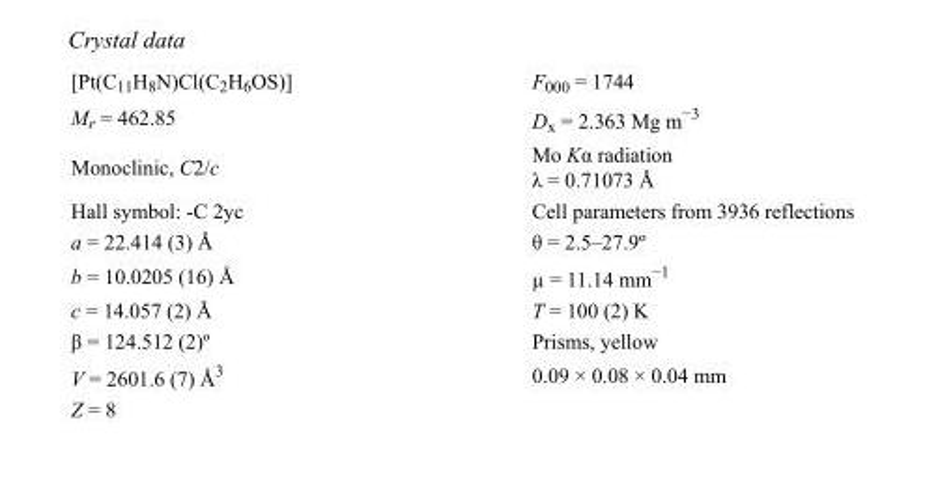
<table><tbody><tr><td>[Pt(C<sub>11</sub>H<sub>8</sub>N)Cl(C<sub>2</sub>H<sub>6</sub>OS)]</td><td>F000 = 1744</td></tr><tr><td>M<sub>r</sub> = 462.85</td><td>D<sub>x</sub> = 2.363 Mg m<sup>−3</sup></td></tr><tr><td>Monoclinic, C2/c</td><td>Mo Kα radiation λ = 0.71073 Å</td></tr><tr><td>Hall symbol: -C 2yc</td><td>Cell parameters from 3936 reflections</td></tr><tr><td>a = 22.414 (3) Å</td><td>θ = 2.5–27.9º</td></tr><tr><td>b = 10.0205 (16) Å</td><td>µ = 11.14 mm<sup>−1</sup></td></tr><tr><td>c = 14.057 (2) Å</td><td>T = 100 (2) K</td></tr><tr><td>β = 124.512 (2)º</td><td>Prisms, yellow</td></tr><tr><td>V = 2601.6 (7) Å<sup>3</sup></td><td>0.09 × 0.08 × 0.04 mm</td></tr><tr><td>Z = 8</td><td></td></tr></tbody></table>